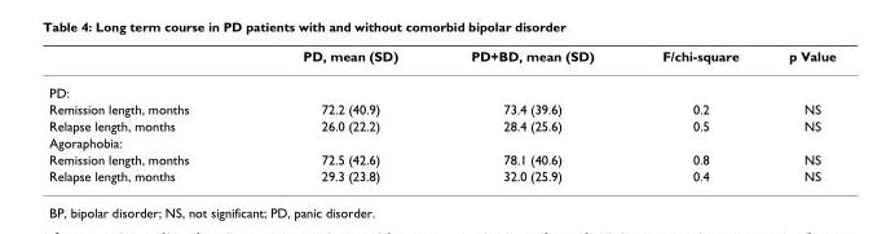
<table><thead><tr><td></td><td>PD, mean (SD)</td><td>PD+BD, mean (SD)</td><td>F/chi-square</td><td>p Value</td></tr></thead><tbody><tr><td colspan="5">PD:</td></tr><tr><td>Remission length, months</td><td>72.2 (40.9)</td><td>73.4 (39.6)</td><td>0.2</td><td>NS</td></tr><tr><td>Relapse length, months</td><td>26.0 (22.2)</td><td>28.4 (25.6)</td><td>0.5</td><td>NS</td></tr><tr><td colspan="5">Agoraphobia:</td></tr><tr><td>Remission length, months</td><td>72.5 (42.6)</td><td>78.1 (40.6)</td><td>0.8</td><td>NS</td></tr><tr><td>Relapse length, months</td><td>29.3 (23.8)</td><td>32.0 (25.9)</td><td>0.4</td><td>NS</td></tr></tbody></table>